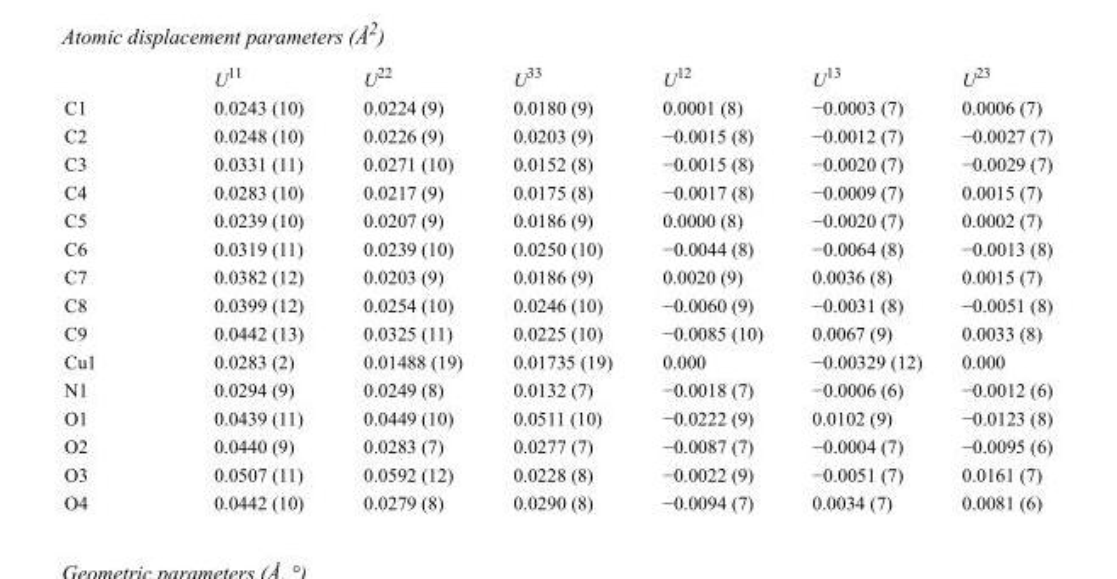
<table><thead><tr><td></td><td>U<sup>11</sup></td><td>U<sup>22</sup></td><td>U<sup>33</sup></td><td>U<sup>12</sup></td><td>U<sup>13</sup></td><td>U<sup>23</sup></td></tr></thead><tbody><tr><td>C1</td><td>0.0243 (10)</td><td>0.0224 (9)</td><td>0.0180 (9)</td><td>0.0001 (8)</td><td>−0.0003 (7)</td><td>0.0006 (7)</td></tr><tr><td>C2</td><td>0.0248 (10)</td><td>0.0226 (9)</td><td>0.0203 (9)</td><td>−0.0015 (8)</td><td>−0.0012 (7)</td><td>−0.0027 (7)</td></tr><tr><td>C3</td><td>0.0331 (11)</td><td>0.0271 (10)</td><td>0.0152 (8)</td><td>−0.0015 (8)</td><td>−0.0020 (7)</td><td>−0.0029 (7)</td></tr><tr><td>C4</td><td>0.0283 (10)</td><td>0.0217 (9)</td><td>0.0175 (8)</td><td>−0.0017 (8)</td><td>−0.0009 (7)</td><td>0.0015 (7)</td></tr><tr><td>C5</td><td>0.0239 (10)</td><td>0.0207 (9)</td><td>0.0186 (9)</td><td>0.0000 (8)</td><td>−0.0020 (7)</td><td>0.0002 (7)</td></tr><tr><td>C6</td><td>0.0319 (11)</td><td>0.0239 (10)</td><td>0.0250 (10)</td><td>−0.0044 (8)</td><td>−0.0064 (8)</td><td>−0.0013 (8)</td></tr><tr><td>C7</td><td>0.0382 (12)</td><td>0.0203 (9)</td><td>0.0186 (9)</td><td>0.0020 (9)</td><td>0.0036 (8)</td><td>0.0015 (7)</td></tr><tr><td>C8</td><td>0.0399 (12)</td><td>0.0254 (10)</td><td>0.0246 (10)</td><td>−0.0060 (9)</td><td>−0.0031 (8)</td><td>−0.0051 (8)</td></tr><tr><td>C9</td><td>0.0442 (13)</td><td>0.0325 (11)</td><td>0.0225 (10)</td><td>−0.0085 (10)</td><td>0.0067 (9)</td><td>0.0033 (8)</td></tr><tr><td>Cu1</td><td>0.0283 (2)</td><td>0.01488 (19)</td><td>0.01735 (19)</td><td>0.000</td><td>−0.00329 (12)</td><td>0.000</td></tr><tr><td>N1</td><td>0.0294 (9)</td><td>0.0249 (8)</td><td>0.0132 (7)</td><td>−0.0018 (7)</td><td>−0.0006 (6)</td><td>−0.0012 (6)</td></tr><tr><td>O1</td><td>0.0439 (11)</td><td>0.0449 (10)</td><td>0.0511 (10)</td><td>−0.0222 (9)</td><td>0.0102 (9)</td><td>−0.0123 (8)</td></tr><tr><td>O2</td><td>0.0440 (9)</td><td>0.0283 (7)</td><td>0.0277 (7)</td><td>−0.0087 (7)</td><td>−0.0004 (7)</td><td>−0.0095 (6)</td></tr><tr><td>O3</td><td>0.0507 (11)</td><td>0.0592 (12)</td><td>0.0228 (8)</td><td>−0.0022 (9)</td><td>−0.0051 (7)</td><td>0.0161 (7)</td></tr><tr><td>O4</td><td>0.0442 (10)</td><td>0.0279 (8)</td><td>0.0290 (8)</td><td>−0.0094 (7)</td><td>0.0034 (7)</td><td>0.0081 (6)</td></tr></tbody></table>